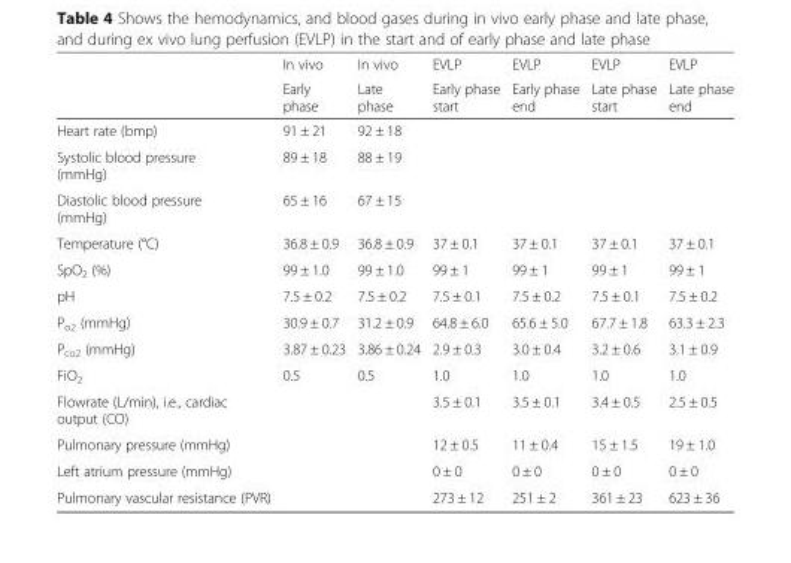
<table><thead><tr><td rowspan="2"></td><td rowspan="2">In vivo Early phase</td><td rowspan="2">In vivo Late phase</td><td rowspan="2">EVLP Early phase start</td><td rowspan="2">EVLP Early phase end</td><td rowspan="2">EVLP Late phase start</td><td rowspan="2">EVLP Late phase end</td></tr><tr></tr></thead><tbody><tr><td>Heart rate (bmp)</td><td>91 ± 21</td><td>92 ± 18</td><td></td><td></td><td></td><td></td></tr><tr><td>Systolic blood pressure (mmHg)</td><td>89 ± 18</td><td>88 ± 19</td><td></td><td></td><td></td><td></td></tr><tr><td>Diastolic blood pressure (mmHg)</td><td>65 ± 16</td><td>67 ± 15</td><td></td><td></td><td></td><td></td></tr><tr><td>Temperature (°C)</td><td>36.8 ± 0.9</td><td>36.8 ± 0.9</td><td>37 ± 0.1</td><td>37 ± 0.1</td><td>37 ± 0.1</td><td>37 ± 0.1</td></tr><tr><td>SpO<sub>2</sub> (%)</td><td>99 ± 1.0</td><td>99 ± 1.0</td><td>99 ± 1</td><td>99 ± 1</td><td>99 ± 1</td><td>99 ± 1</td></tr><tr><td>pH</td><td>7.5 ± 0.2</td><td>7.5 ± 0.2</td><td>7.5 ± 0.1</td><td>7.5 ± 0.2</td><td>7.5 ± 0.1</td><td>7.5 ± 0.2</td></tr><tr><td>P<sub>o2</sub> (mmHg)</td><td>30.9 ± 0.7</td><td>31.2 ± 0.9</td><td>64.8 ± 6.0</td><td>65.6 ± 5.0</td><td>67.7 ± 1.8</td><td>63.3 ± 2.3</td></tr><tr><td>P<sub>co2</sub> (mmHg)</td><td>3.87 ± 0.23</td><td>3.86 ± 0.24</td><td>2.9 ± 0.3</td><td>3.0 ± 0.4</td><td>3.2 ± 0.6</td><td>3.1 ± 0.9</td></tr><tr><td>FiO<sub>2</sub></td><td>0.5</td><td>0.5</td><td>1.0</td><td>1.0</td><td>1.0</td><td>1.0</td></tr><tr><td>Flowrate (L/min), i.e., cardiac output (CO)</td><td></td><td></td><td>3.5 ± 0.1</td><td>3.5 ± 0.1</td><td>3.4 ± 0.5</td><td>2.5 ± 0.5</td></tr><tr><td>Pulmonary pressure (mmHg)</td><td></td><td></td><td>12 ± 0.5</td><td>11 ± 0.4</td><td>15 ± 1.5</td><td>19 ± 1.0</td></tr><tr><td>Left atrium pressure (mmHg)</td><td></td><td></td><td>0 ± 0</td><td>0 ± 0</td><td>0 ± 0</td><td>0 ± 0</td></tr><tr><td>Pulmonary vascular resistance (PVR)</td><td></td><td></td><td>273 ± 12</td><td>251 ± 2</td><td>361 ± 23</td><td>623 ± 36</td></tr></tbody></table>